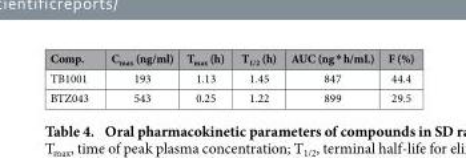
<table><thead><tr><td>Comp.</td><td>C<sub>max</sub> (ng/ml)</td><td>T<sub>max</sub> (h)</td><td>T<sub>1/2</sub> (h)</td><td>AUC (ng * h/mL)</td><td>F (%)</td></tr></thead><tbody><tr><td>TB1001</td><td>193</td><td>1.13</td><td>1.45</td><td>847</td><td>44.4</td></tr><tr><td>BTZ043</td><td>543</td><td>0.25</td><td>1.22</td><td>899</td><td>29.5</td></tr></tbody></table>